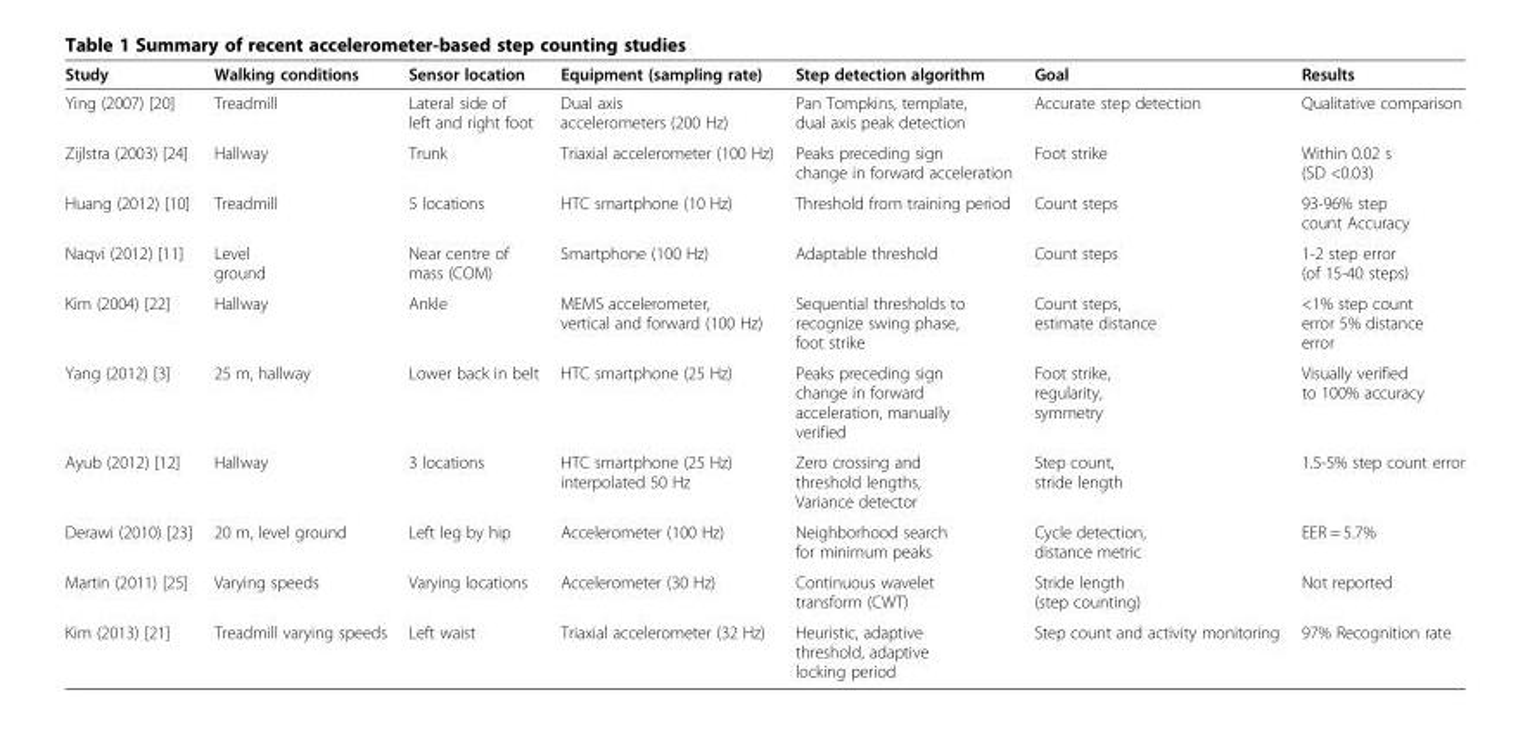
<table><thead><tr><td>Study</td><td>Walking conditions</td><td>Sensor location</td><td>Equipment (sampling rate)</td><td>Step detection algorithm</td><td>Goal</td><td>Results</td></tr></thead><tbody><tr><td>Ying (2007) [20]</td><td>Treadmill</td><td>Lateral side of left and right foot</td><td>Dual axis accelerometers (200 Hz)</td><td>Pan Tompkins, template, dual axis peak detection</td><td>Accurate step detection</td><td>Qualitative comparison</td></tr><tr><td>Zijlstra (2003) [24]</td><td>Hallway</td><td>Trunk</td><td>Triaxial accelerometer (100 Hz)</td><td>Peaks preceding sign change in forward acceleration</td><td>Foot strike</td><td>Within 0.02 s (SD &lt;0.03)</td></tr><tr><td>Huang (2012) [10]</td><td>Treadmill</td><td>5 locations</td><td>HTC smartphone (10 Hz)</td><td>Threshold from training period</td><td>Count steps</td><td>93-96% step count Accuracy</td></tr><tr><td>Naqvi (2012) [11]</td><td>Level ground</td><td>Near centre of mass (COM)</td><td>Smartphone (100 Hz)</td><td>Adaptable threshold</td><td>Count steps</td><td>1-2 step error (of 15-40 steps)</td></tr><tr><td>Kim (2004) [22]</td><td>Hallway</td><td>Ankle</td><td>MEMS accelerometer, vertical and forward (100 Hz)</td><td>Sequential thresholds to recognize swing phase, foot strike</td><td>Count steps, estimate distance</td><td>&lt;1% step count error 5% distance error</td></tr><tr><td>Yang (2012) [3]</td><td>25 m, hallway</td><td>Lower back in belt</td><td>HTC smartphone (25 Hz)</td><td>Peaks preceding sign change in forward acceleration, manually verified</td><td>Foot strike, regularity, symmetry</td><td>Visually verified to 100% accuracy</td></tr><tr><td>Ayub (2012) [12]</td><td>Hallway</td><td>3 locations</td><td>HTC smartphone (25 Hz) interpolated 50 Hz</td><td>Zero crossing and threshold lengths, Variance detector</td><td>Step count, stride length</td><td>1.5-5% step count error</td></tr><tr><td>Derawi (2010) [23]</td><td>20 m, level ground</td><td>Left leg by hip</td><td>Accelerometer (100 Hz)</td><td>Neighborhood search for minimum peaks</td><td>Cycle detection, distance metric</td><td>EER = 5.7%</td></tr><tr><td>Martin (2011) [25]</td><td>Varying speeds</td><td>Varying locations</td><td>Accelerometer (30 Hz)</td><td>Continuous wavelet transform (CWT)</td><td>Stride length (step counting)</td><td>Not reported</td></tr><tr><td>Kim (2013) [21]</td><td>Treadmill varying speeds</td><td>Left waist</td><td>Triaxial accelerometer (32 Hz)</td><td>Heuristic, adaptive threshold, adaptive locking period</td><td>Step count and activity monitoring</td><td>97% Recognition rate</td></tr></tbody></table>